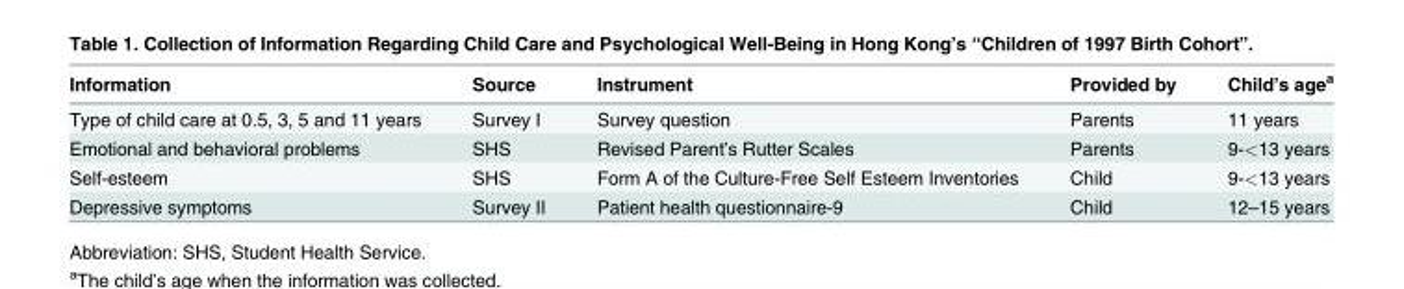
<table><thead><tr><td>Information</td><td>Source</td><td>Instrument</td><td>Provided by</td><td>Child’s age<sup>a</sup></td></tr></thead><tbody><tr><td>Type of child care at 0.5, 3, 5 and 11 years</td><td>Survey I</td><td>Survey question</td><td>Parents</td><td>11 years</td></tr><tr><td>Emotional and behavioral problems</td><td>SHS</td><td>Revised Parent’s Rutter Scales</td><td>Parents</td><td>9-&lt;13 years</td></tr><tr><td>Self-esteem</td><td>SHS</td><td>Form A of the Culture-Free Self Esteem Inventories</td><td>Child</td><td>9-&lt;13 years</td></tr><tr><td>Depressive symptoms</td><td>Survey II</td><td>Patient health questionnaire-9</td><td>Child</td><td>12–15 years</td></tr></tbody></table>